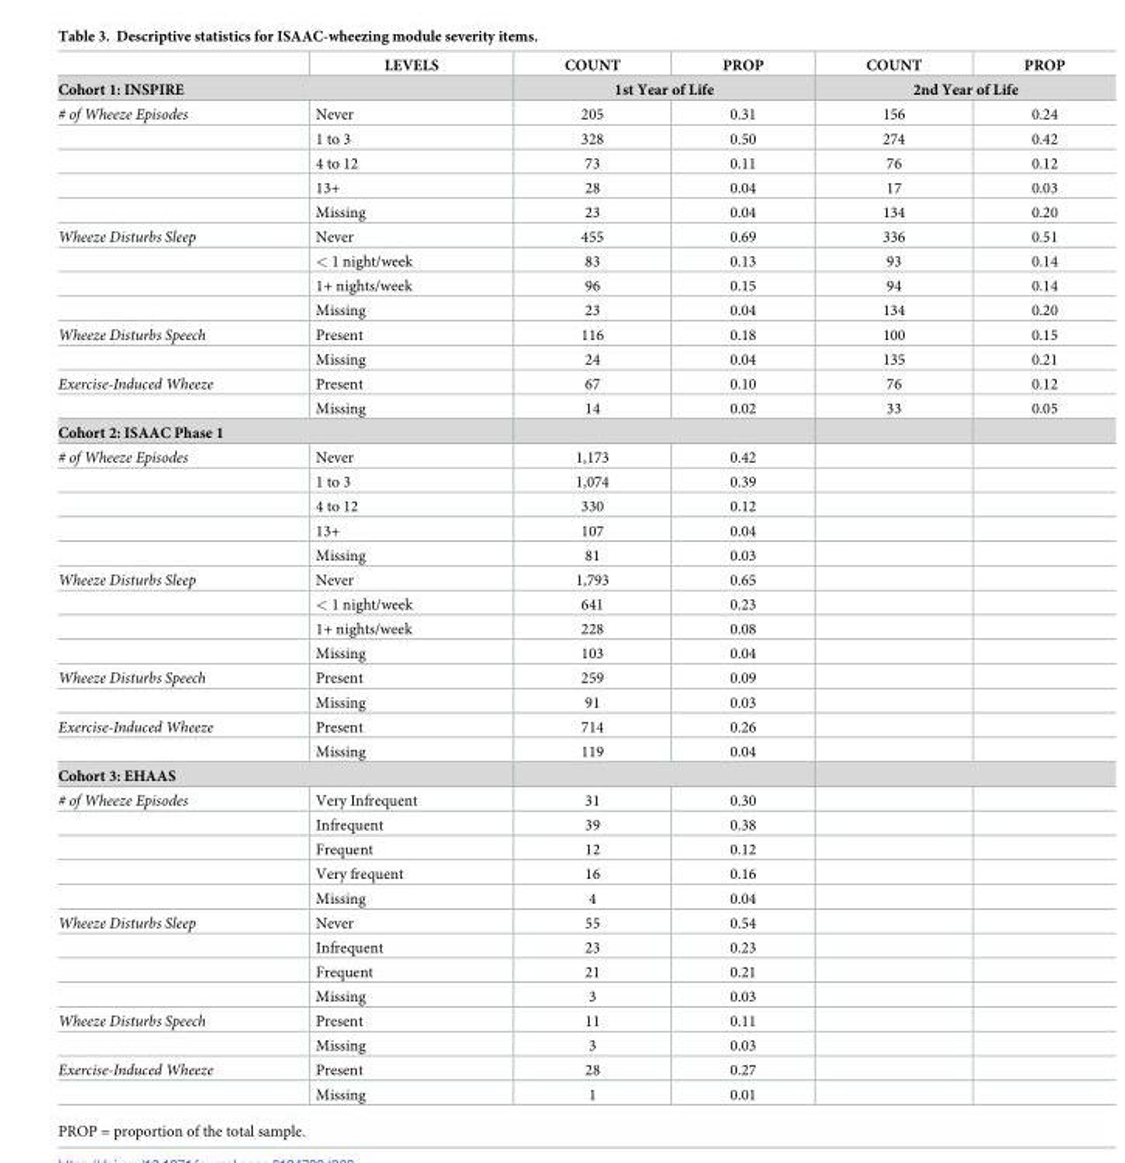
<table><thead><tr><td></td><td>LEVELS</td><td>COUNT</td><td>PROP</td><td>COUNT</td><td>PROP</td></tr></thead><tbody><tr><td colspan="2">Cohort 1: INSPIRE</td><td colspan="2">1st Year of Life</td><td colspan="2">2nd Year of Life</td></tr><tr><td rowspan="5"># of Wheeze Episodes</td><td>Never</td><td>205</td><td>0.31</td><td>156</td><td>0.24</td></tr><tr><td>1 to 3</td><td>328</td><td>0.50</td><td>274</td><td>0.42</td></tr><tr><td>4 to 12</td><td>73</td><td>0.11</td><td>76</td><td>0.12</td></tr><tr><td>13+</td><td>28</td><td>0.04</td><td>17</td><td>0.03</td></tr><tr><td>Missing</td><td>23</td><td>0.04</td><td>134</td><td>0.20</td></tr><tr><td rowspan="4">Wheeze Disturbs Sleep</td><td>Never</td><td>455</td><td>0.69</td><td>336</td><td>0.51</td></tr><tr><td>&lt; 1 night/week</td><td>83</td><td>0.13</td><td>93</td><td>0.14</td></tr><tr><td>1+ nights/week</td><td>96</td><td>0.15</td><td>94</td><td>0.14</td></tr><tr><td>Missing</td><td>23</td><td>0.04</td><td>134</td><td>0.20</td></tr><tr><td rowspan="2">Wheeze Disturbs Speech</td><td>Present</td><td>116</td><td>0.18</td><td>100</td><td>0.15</td></tr><tr><td>Missing</td><td>24</td><td>0.04</td><td>135</td><td>0.21</td></tr><tr><td rowspan="2">Exercise-Induced Wheeze</td><td>Present</td><td>67</td><td>0.10</td><td>76</td><td>0.12</td></tr><tr><td>Missing</td><td>14</td><td>0.02</td><td>33</td><td>0.05</td></tr><tr><td colspan="6">Cohort 2: ISAAC Phase 1</td></tr><tr><td rowspan="5"># of Wheeze Episodes</td><td>Never</td><td>1,173</td><td>0.42</td><td></td><td></td></tr><tr><td>1 to 3</td><td>1,074</td><td>0.39</td><td></td><td></td></tr><tr><td>4 to 12</td><td>330</td><td>0.12</td><td></td><td></td></tr><tr><td>13+</td><td>107</td><td>0.04</td><td></td><td></td></tr><tr><td>Missing</td><td>81</td><td>0.03</td><td></td><td></td></tr><tr><td rowspan="4">Wheeze Disturbs Sleep</td><td>Never</td><td>1,793</td><td>0.65</td><td></td><td></td></tr><tr><td>&lt; 1 night/week</td><td>641</td><td>0.23</td><td></td><td></td></tr><tr><td>1+ nights/week</td><td>228</td><td>0.08</td><td></td><td></td></tr><tr><td>Missing</td><td>103</td><td>0.04</td><td></td><td></td></tr><tr><td rowspan="2">Wheeze Disturbs Speech</td><td>Present</td><td>259</td><td>0.09</td><td></td><td></td></tr><tr><td>Missing</td><td>91</td><td>0.03</td><td></td><td></td></tr><tr><td rowspan="2">Exercise-Induced Wheeze</td><td>Present</td><td>714</td><td>0.26</td><td></td><td></td></tr><tr><td>Missing</td><td>119</td><td>0.04</td><td></td><td></td></tr><tr><td colspan="6">Cohort 3: EHAAS</td></tr><tr><td rowspan="5"># of Wheeze Episodes</td><td>Very Infrequent</td><td>31</td><td>0.30</td><td></td><td></td></tr><tr><td>Infrequent</td><td>39</td><td>0.38</td><td></td><td></td></tr><tr><td>Frequent</td><td>12</td><td>0.12</td><td></td><td></td></tr><tr><td>Very frequent</td><td>16</td><td>0.16</td><td></td><td></td></tr><tr><td>Missing</td><td>4</td><td>0.04</td><td></td><td></td></tr><tr><td rowspan="4">Wheeze Disturbs Sleep</td><td>Never</td><td>55</td><td>0.54</td><td></td><td></td></tr><tr><td>Infrequent</td><td>23</td><td>0.23</td><td></td><td></td></tr><tr><td>Frequent</td><td>21</td><td>0.21</td><td></td><td></td></tr><tr><td>Missing</td><td>3</td><td>0.03</td><td></td><td></td></tr><tr><td rowspan="2">Wheeze Disturbs Speech</td><td>Present</td><td>11</td><td>0.11</td><td></td><td></td></tr><tr><td>Missing</td><td>3</td><td>0.03</td><td></td><td></td></tr><tr><td rowspan="2">Exercise-Induced Wheeze</td><td>Present</td><td>28</td><td>0.27</td><td></td><td></td></tr><tr><td>Missing</td><td>1</td><td>0.01</td><td></td><td></td></tr></tbody></table>